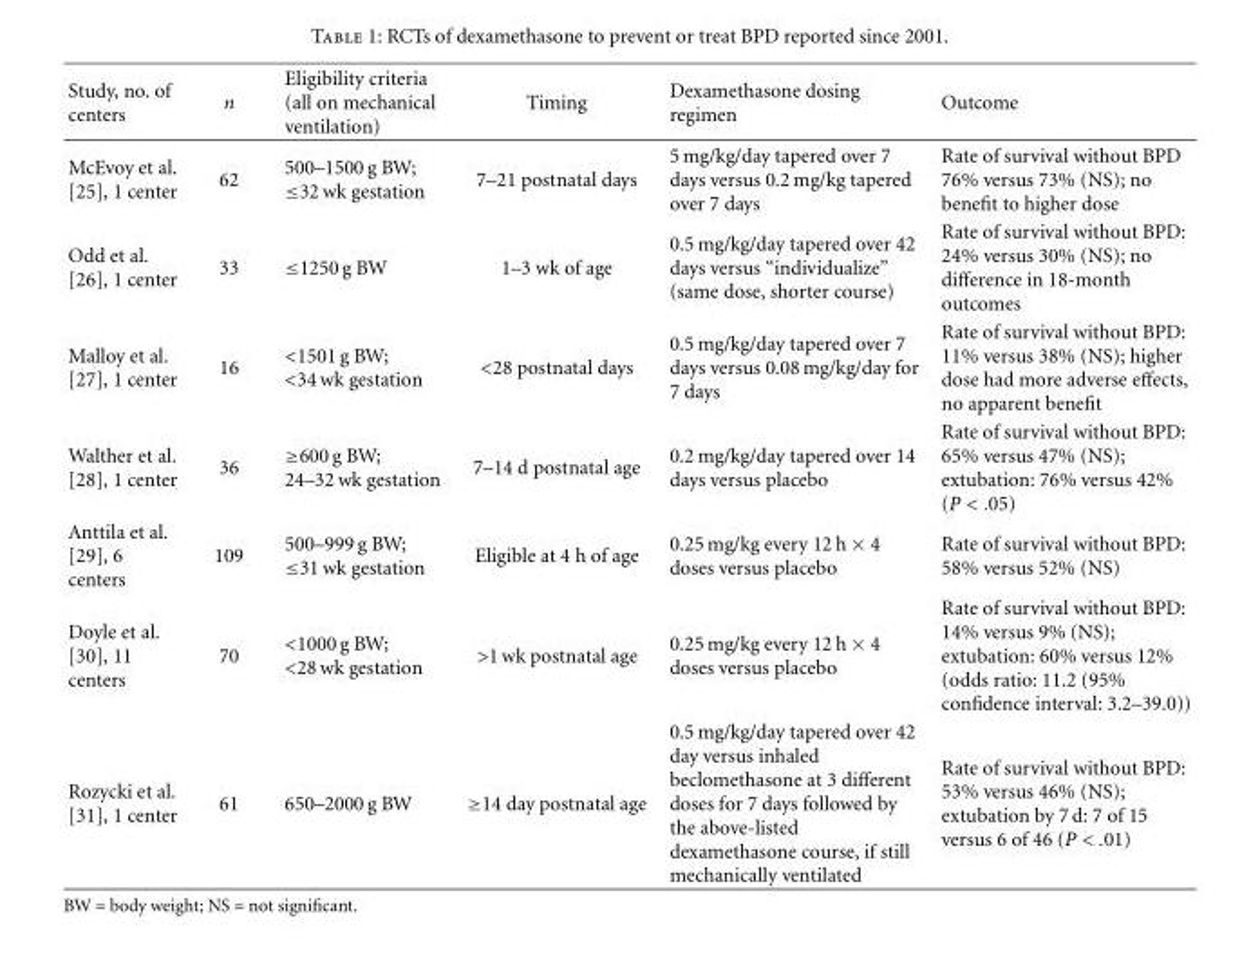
<table><thead><tr><td>Study, no. of centers</td><td>n</td><td>Eligibility criteria (all on mechanical ventilation)</td><td>Timing</td><td>Dexamethasone dosing regimen</td><td>Outcome</td></tr></thead><tbody><tr><td>McEvoy et al. [25], 1 center</td><td>62</td><td>500–1500 g BW; ≤32 wk gestation</td><td>7–21 postnatal days</td><td>5 mg/kg/day tapered over 7 days versus 0.2 mg/kg tapered over 7 days</td><td>Rate of survival without BPD 76% versus 73% (NS); no benefit to higher dose</td></tr><tr><td>Odd et al. [26], 1 center</td><td>33</td><td>≤1250 g BW</td><td>1–3 wk of age</td><td>0.5 mg/kg/day tapered over 42 days versus “individualize” (same dose, shorter course)</td><td>Rate of survival without BPD: 24% versus 30% (NS); no difference in 18-month outcomes</td></tr><tr><td>Malloy et al. [27], 1 center</td><td>16</td><td>&lt;1501 g BW; &lt;34 wk gestation</td><td>&lt;28 postnatal days</td><td>0.5 mg/kg/day tapered over 7 days versus 0.08 mg/kg/day for 7 days</td><td>Rate of survival without BPD: 11% versus 38% (NS); higher dose had more adverse effects, no apparent benefit</td></tr><tr><td>Walther et al. [28], 1 center</td><td>36</td><td>≥600 g BW; 24–32 wk gestation</td><td>7–14 d postnatal age</td><td>0.2 mg/kg/day tapered over 14 days versus placebo</td><td>Rate of survival without BPD: 65% versus 47% (NS); extubation: 76% versus 42% (P &lt; .05)</td></tr><tr><td>Anttila et al. [29], 6 centers</td><td>109</td><td>500–999 g BW; ≤31 wk gestation</td><td>Eligible at 4 h of age</td><td>0.25 mg/kg every 12 h × 4 doses versus placebo</td><td>Rate of survival without BPD: 58% versus 52% (NS)</td></tr><tr><td>Doyle et al. [30], 11 centers</td><td>70</td><td>&lt;1000 g BW; &lt;28 wk gestation</td><td>&gt;1 wk postnatal age</td><td>0.25 mg/kg every 12 h × 4 doses versus placebo</td><td>Rate of survival without BPD: 14% versus 9% (NS); extubation: 60% versus 12% (odds ratio: 11.2 (95% confidence interval: 3.2–39.0))</td></tr><tr><td>Rozycki et al. [31], 1 center</td><td>61</td><td>650–2000 g BW</td><td>≥14 day postnatal age</td><td>0.5 mg/kg/day tapered over 42 day versus inhaled beclomethasone at 3 different doses for 7 days followed by the above-listed dexamethasone course, if still mechanically ventilated</td><td>Rate of survival without BPD: 53% versus 46% (NS); extubation by 7 d: 7 of 15 versus 6 of 46 (P &lt; .01)</td></tr></tbody></table>